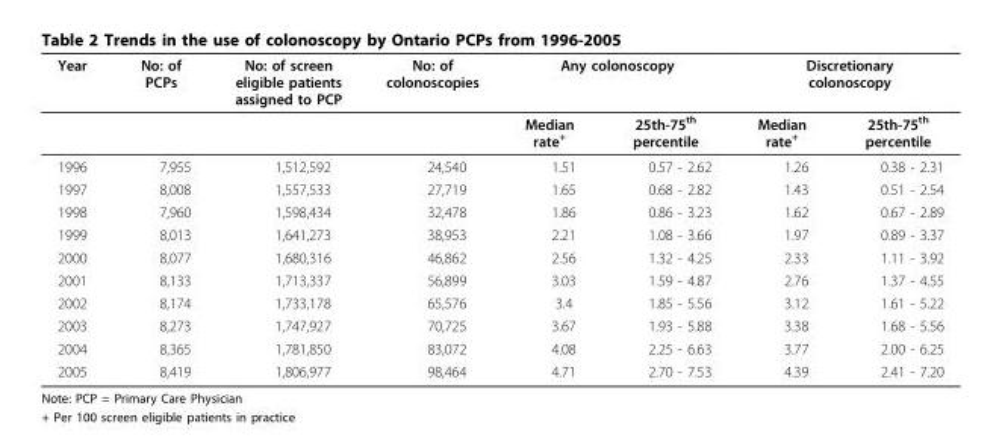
<table><thead><tr><td rowspan="2">Year</td><td rowspan="2">No: of PCPs</td><td rowspan="2">No: of screen eligible patients assigned to PCP</td><td rowspan="2">No: of colonoscopies</td><td colspan="2">Any colonoscopy</td><td colspan="2">Discretionary colonoscopy</td></tr><tr><td>Median rate<sup>+</sup></td><td>25th-75<sup>th</sup> percentile</td><td>Median rate<sup>+</sup></td><td>25th-75<sup>th</sup> percentile</td></tr></thead><tbody><tr><td>1996</td><td>7,955</td><td>1,512,592</td><td>24,540</td><td>1.51</td><td>0.57 - 2.62</td><td>1.26</td><td>0.38 - 2.31</td></tr><tr><td>1997</td><td>8,008</td><td>1,557,533</td><td>27,719</td><td>1.65</td><td>0.68 - 2.82</td><td>1.43</td><td>0.51 - 2.54</td></tr><tr><td>1998</td><td>7,960</td><td>1,598,434</td><td>32,478</td><td>1.86</td><td>0.86 - 3.23</td><td>1.62</td><td>0.67 - 2.89</td></tr><tr><td>1999</td><td>8,013</td><td>1,641,273</td><td>38,953</td><td>2.21</td><td>1.08 - 3.66</td><td>1.97</td><td>0.89 - 3.37</td></tr><tr><td>2000</td><td>8,077</td><td>1,680,316</td><td>46,862</td><td>2.56</td><td>1.32 - 4.25</td><td>2.33</td><td>1.11 - 3.92</td></tr><tr><td>2001</td><td>8,133</td><td>1,713,337</td><td>56,899</td><td>3.03</td><td>1.59 - 4.87</td><td>2.76</td><td>1.37 - 4.55</td></tr><tr><td>2002</td><td>8,174</td><td>1,733,178</td><td>65,576</td><td>3.4</td><td>1.85 - 5.56</td><td>3.12</td><td>1.61 - 5.22</td></tr><tr><td>2003</td><td>8,273</td><td>1,747,927</td><td>70,725</td><td>3.67</td><td>1.93 - 5.88</td><td>3.38</td><td>1.68 - 5.56</td></tr><tr><td>2004</td><td>8,365</td><td>1,781,850</td><td>83,072</td><td>4.08</td><td>2.25 - 6.63</td><td>3.77</td><td>2.00 - 6.25</td></tr><tr><td>2005</td><td>8,419</td><td>1,806,977</td><td>98,464</td><td>4.71</td><td>2.70 - 7.53</td><td>4.39</td><td>2.41 - 7.20</td></tr></tbody></table>